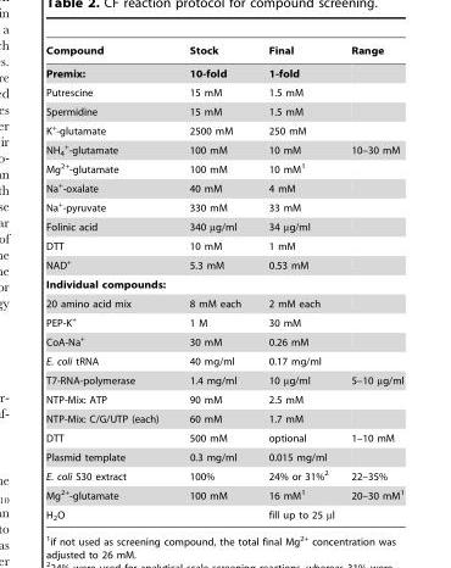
<table><thead><tr><td>Compound</td><td>Stock</td><td>Final</td><td>Range</td></tr></thead><tbody><tr><td>Premix:</td><td>10-fold</td><td>1-fold</td><td></td></tr><tr><td>Putrescine</td><td>15 mM</td><td>1.5 mM</td><td></td></tr><tr><td>Spermidine</td><td>15 mM</td><td>1.5 mM</td><td></td></tr><tr><td>K<sup>+</sup>-glutamate</td><td>2500 mM</td><td>250 mM</td><td></td></tr><tr><td>NH<sub>4</sub> <sup>+</sup>-glutamate</td><td>100 mM</td><td>10 mM</td><td>10–30 mM</td></tr><tr><td>Mg<sup>2+</sup>-glutamate</td><td>100 mM</td><td>10 mM<sup>1</sup></td><td></td></tr><tr><td>Na<sup>+</sup>-oxalate</td><td>40 mM</td><td>4 mM</td><td></td></tr><tr><td>Na<sup>+</sup>-pyruvate</td><td>330 mM</td><td>33 mM</td><td></td></tr><tr><td>Folinic acid</td><td>340 µg/ml</td><td>34 µg/ml</td><td></td></tr><tr><td>DTT</td><td>10 mM</td><td>1 mM</td><td></td></tr><tr><td>NAD<sup>+</sup></td><td>5.3 mM</td><td>0.53 mM</td><td></td></tr><tr><td colspan="4">Individual compounds:</td></tr><tr><td>20 amino acid mix</td><td>8 mM each</td><td>2 mM each</td><td></td></tr><tr><td>PEP-K<sup>+</sup></td><td>1 M</td><td>30 mM</td><td></td></tr><tr><td>CoA-Na<sup>+</sup></td><td>30 mM</td><td>0.26 mM</td><td></td></tr><tr><td>E. coli tRNA</td><td>40 mg/ml</td><td>0.17 mg/ml</td><td></td></tr><tr><td>T7-RNA-polymerase</td><td>1.4 mg/ml</td><td>10 µg/ml</td><td>5–10 µg/ml</td></tr><tr><td>NTP-Mix: ATP</td><td>90 mM</td><td>2.5 mM</td><td></td></tr><tr><td>NTP-Mix: C/G/UTP (each)</td><td>60 mM</td><td>1.7 mM</td><td></td></tr><tr><td>DTT</td><td>500 mM</td><td>optional</td><td>1–10 mM</td></tr><tr><td>Plasmid template</td><td>0.3 mg/ml</td><td>0.015 mg/ml</td><td></td></tr><tr><td>E. coli S30 extract</td><td>100%</td><td>24% or 31%<sup>2</sup></td><td>22–35%</td></tr><tr><td>Mg<sup>2+</sup>-glutamate</td><td>100 mM</td><td>16 mM<sup>1</sup></td><td>20–30 mM<sup>1</sup></td></tr><tr><td>H<sub>2</sub>O</td><td></td><td>fill up to 25 µl</td><td></td></tr></tbody></table>